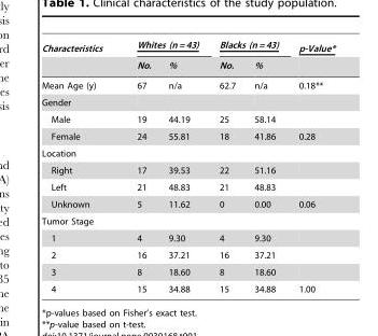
<table><thead><tr><td rowspan="2">Characteristics</td><td colspan="2">Whites (n = 43)</td><td colspan="2">Blacks (n = 43)</td><td rowspan="2">p-Value*</td></tr><tr><td>No.</td><td>%</td><td>No.</td><td>%</td></tr></thead><tbody><tr><td>Mean Age (y)</td><td>67</td><td>n/a</td><td>62.7</td><td>n/a</td><td>0.18**</td></tr><tr><td colspan="6">Gender</td></tr><tr><td>Male</td><td>19</td><td>44.19</td><td>25</td><td>58.14</td><td></td></tr><tr><td>Female</td><td>24</td><td>55.81</td><td>18</td><td>41.86</td><td>0.28</td></tr><tr><td colspan="6">Location</td></tr><tr><td>Right</td><td>17</td><td>39.53</td><td>22</td><td>51.16</td><td></td></tr><tr><td>Left</td><td>21</td><td>48.83</td><td>21</td><td>48.83</td><td></td></tr><tr><td>Unknown</td><td>5</td><td>11.62</td><td>0</td><td>0.00</td><td>0.06</td></tr><tr><td colspan="6">Tumor Stage</td></tr><tr><td>1</td><td>4</td><td>9.30</td><td>4</td><td>9.30</td><td></td></tr><tr><td>2</td><td>16</td><td>37.21</td><td>16</td><td>37.21</td><td></td></tr><tr><td>3</td><td>8</td><td>18.60</td><td>8</td><td>18.60</td><td></td></tr><tr><td>4</td><td>15</td><td>34.88</td><td>15</td><td>34.88</td><td>1.00</td></tr></tbody></table>